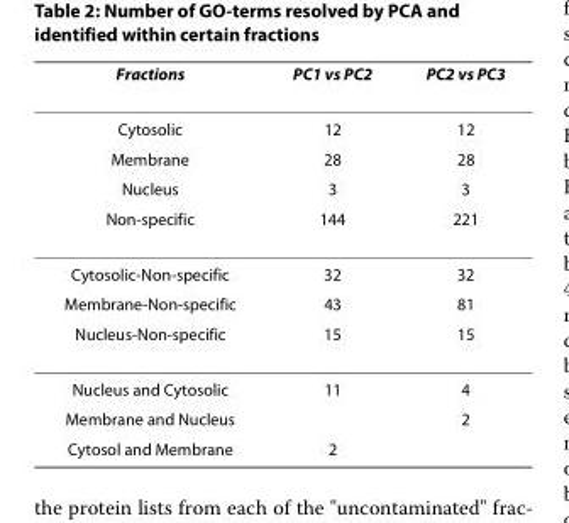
<table><thead><tr><td>Fractions</td><td>PC1 vs PC2</td><td>PC2 vs PC3</td></tr></thead><tbody><tr><td>Cytosolic</td><td>12</td><td>12</td></tr><tr><td>Membrane</td><td>28</td><td>28</td></tr><tr><td>Nucleus</td><td>3</td><td>3</td></tr><tr><td>Non-specific</td><td>144</td><td>221</td></tr><tr><td>Cytosolic-Non-specific</td><td>32</td><td>32</td></tr><tr><td>Membrane-Non-specific</td><td>43</td><td>81</td></tr><tr><td>Nucleus-Non-specific</td><td>15</td><td>15</td></tr><tr><td>Nucleus and Cytosolic</td><td>11</td><td>4</td></tr><tr><td>Membrane and Nucleus</td><td></td><td>2</td></tr><tr><td>Cytosol and Membrane</td><td>2</td><td></td></tr></tbody></table>